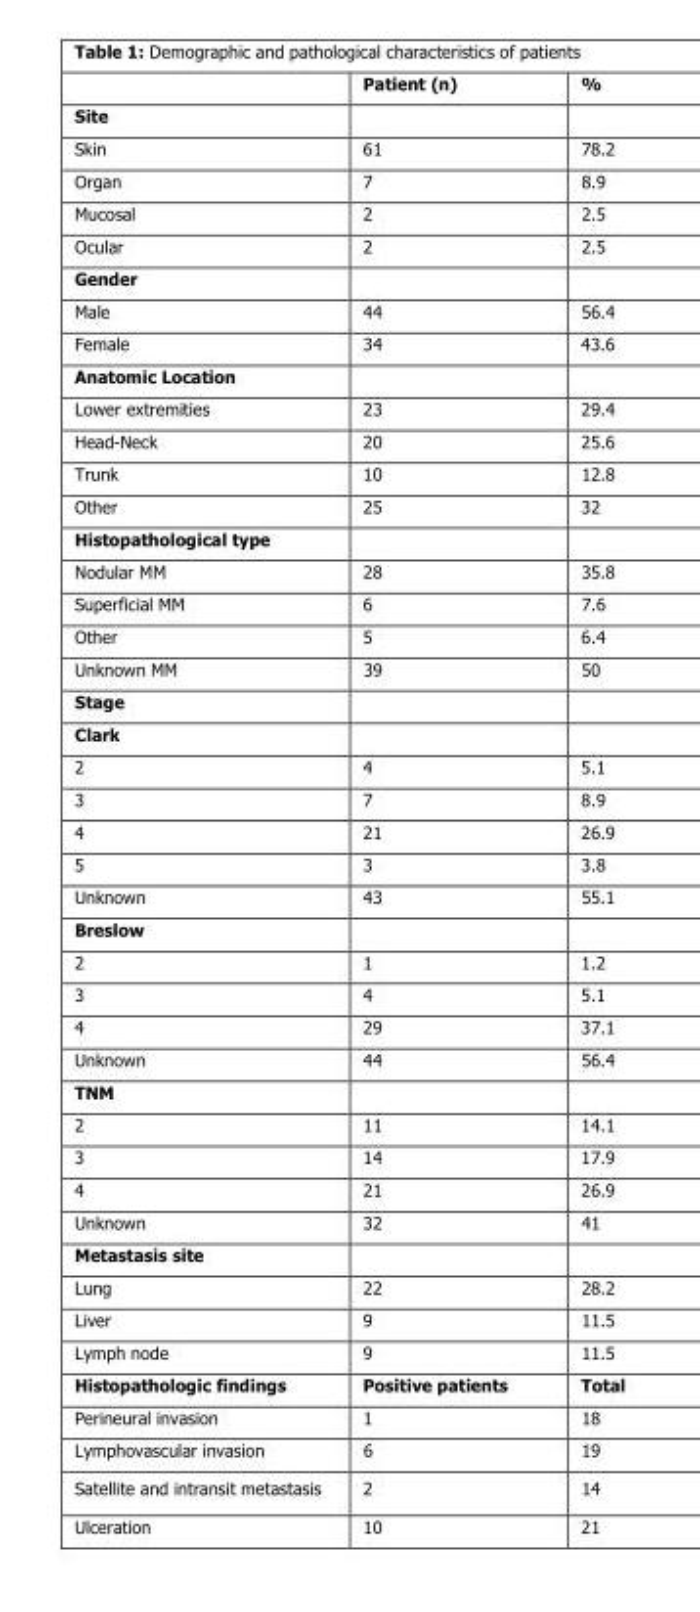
<table><thead><tr><td></td><td>Patient (n)</td><td>%</td></tr></thead><tbody><tr><td colspan="3">Site</td></tr><tr><td>Skin</td><td>61</td><td>78.2</td></tr><tr><td>Organ</td><td>7</td><td>8.9</td></tr><tr><td>Mucosal</td><td>2</td><td>2.5</td></tr><tr><td>Ocular</td><td>2</td><td>2.5</td></tr><tr><td colspan="3">Gender</td></tr><tr><td>Male</td><td>44</td><td>56.4</td></tr><tr><td>Female</td><td>34</td><td>43.6</td></tr><tr><td colspan="3">Anatomic Location</td></tr><tr><td>Lower extremities</td><td>23</td><td>29.4</td></tr><tr><td>Head-Neck</td><td>20</td><td>25.6</td></tr><tr><td>Trunk</td><td>10</td><td>12.8</td></tr><tr><td>Other</td><td>25</td><td>32</td></tr><tr><td colspan="3">Histopathological type</td></tr><tr><td>Nodular MM</td><td>28</td><td>35.8</td></tr><tr><td>Superficial MM</td><td>6</td><td>7.6</td></tr><tr><td>Other</td><td>5</td><td>6.4</td></tr><tr><td>Unknown MM</td><td>39</td><td>50</td></tr><tr><td colspan="3">Stage</td></tr><tr><td colspan="3">Clark</td></tr><tr><td>2</td><td>4</td><td>5.1</td></tr><tr><td>3</td><td>7</td><td>8.9</td></tr><tr><td>4</td><td>21</td><td>26.9</td></tr><tr><td>5</td><td>3</td><td>3.8</td></tr><tr><td>Unknown</td><td>43</td><td>55.1</td></tr><tr><td colspan="3">Breslow</td></tr><tr><td>2</td><td>1</td><td>1.2</td></tr><tr><td>3</td><td>4</td><td>5.1</td></tr><tr><td>4</td><td>29</td><td>37.1</td></tr><tr><td>Unknown</td><td>44</td><td>56.4</td></tr><tr><td colspan="3">TNM</td></tr><tr><td>2</td><td>11</td><td>14.1</td></tr><tr><td>3</td><td>14</td><td>17.9</td></tr><tr><td>4</td><td>21</td><td>26.9</td></tr><tr><td>Unknown</td><td>32</td><td>41</td></tr><tr><td colspan="3">Metastasis site</td></tr><tr><td>Lung</td><td>22</td><td>28.2</td></tr><tr><td>Liver</td><td>9</td><td>11.5</td></tr><tr><td>Lymph node</td><td>9</td><td>11.5</td></tr><tr><td>Histopathologic findings</td><td>Positive patients</td><td>Total</td></tr><tr><td>Perineural invasion</td><td>1</td><td>18</td></tr><tr><td>Lymphovascular invasion</td><td>6</td><td>19</td></tr><tr><td>Satellite and intransit metastasis</td><td>2</td><td>14</td></tr><tr><td>Ulceration</td><td>10</td><td>21</td></tr></tbody></table>